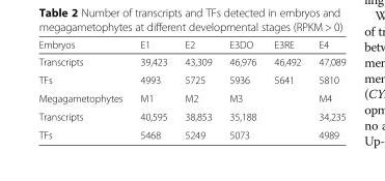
<table><thead><tr><td>Embryos</td><td>E1</td><td>E2</td><td>E3DO</td><td>E3RE</td><td>E4</td></tr></thead><tbody><tr><td>Transcripts</td><td>39,423</td><td>43,309</td><td>46,976</td><td>46,492</td><td>47,089</td></tr><tr><td>TFs</td><td>4993</td><td>5725</td><td>5936</td><td>5641</td><td>5810</td></tr><tr><td>Megagametophytes</td><td>M1</td><td>M2</td><td colspan="2">M3</td><td>M4</td></tr><tr><td>Transcripts</td><td>40,595</td><td>38,853</td><td colspan="2">35,188</td><td>34,235</td></tr><tr><td>TFs</td><td>5468</td><td>5249</td><td colspan="2">5073</td><td>4989</td></tr></tbody></table>